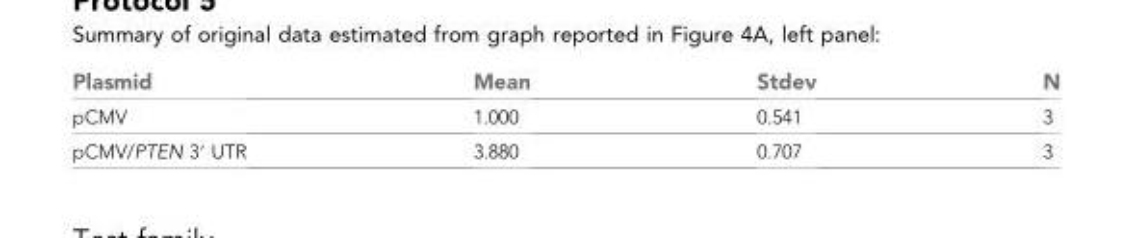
<table><thead><tr><td>Plasmid</td><td>Mean</td><td>Stdev</td><td>N</td></tr></thead><tbody><tr><td>pCMV</td><td>1.000</td><td>0.541</td><td>3</td></tr><tr><td>pCMV/PTEN 3′ UTR</td><td>3.880</td><td>0.707</td><td>3</td></tr></tbody></table>